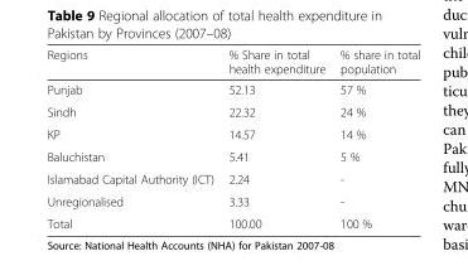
<table><thead><tr><td>Regions</td><td>% Share in total health expenditure</td><td>% share in total population</td></tr></thead><tbody><tr><td>Punjab</td><td>52.13</td><td>57 %</td></tr><tr><td>Sindh</td><td>22.32</td><td>24 %</td></tr><tr><td>KP</td><td>14.57</td><td>14 %</td></tr><tr><td>Baluchistan</td><td>5.41</td><td>5 %</td></tr><tr><td>Islamabad Capital Authority (ICT)</td><td>2.24</td><td>-</td></tr><tr><td>Unregionalised</td><td>3.33</td><td>-</td></tr><tr><td>Total</td><td>100.00</td><td>100 %</td></tr></tbody></table>